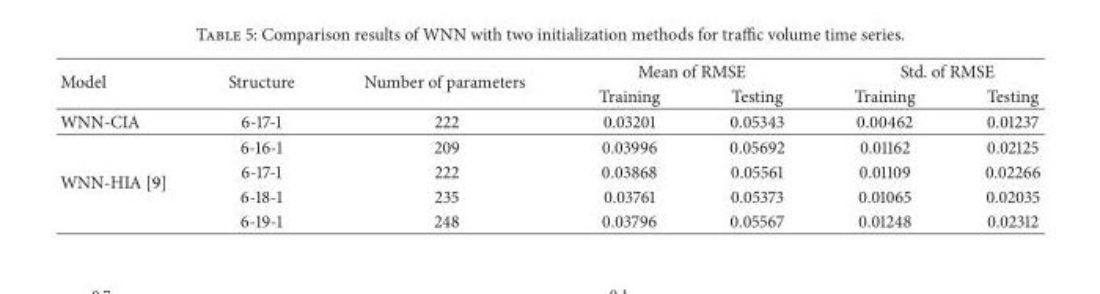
<table><thead><tr><td rowspan="2">Model</td><td rowspan="2">Structure</td><td rowspan="2">Number of parameters</td><td colspan="2">Mean of RMSE</td><td colspan="2">Std. of RMSE</td></tr><tr><td>Training</td><td>Testing</td><td>Training</td><td>Testing</td></tr></thead><tbody><tr><td>WNN-CIA</td><td>6-17-1</td><td>222</td><td>0.03201</td><td>0.05343</td><td>0.00462</td><td>0.01237</td></tr><tr><td rowspan="4">WNN-HIA [9]</td><td>6-16-1</td><td>209</td><td>0.03996</td><td>0.05692</td><td>0.01162</td><td>0.02125</td></tr><tr><td>6-17-1</td><td>222</td><td>0.03868</td><td>0.05561</td><td>0.01109</td><td>0.02266</td></tr><tr><td>6-18-1</td><td>235</td><td>0.03761</td><td>0.05373</td><td>0.01065</td><td>0.02035</td></tr><tr><td>6-19-1</td><td>248</td><td>0.03796</td><td>0.05567</td><td>0.01248</td><td>0.02312</td></tr></tbody></table>